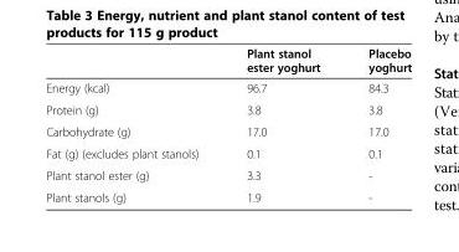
<table><thead><tr><td></td><td>Plant stanol ester yoghurt</td><td>Placebo yoghurt</td></tr></thead><tbody><tr><td>Energy (kcal)</td><td>96.7</td><td>84.3</td></tr><tr><td>Protein (g)</td><td>3.8</td><td>3.8</td></tr><tr><td>Carbohydrate (g)</td><td>17.0</td><td>17.0</td></tr><tr><td>Fat (g) (excludes plant stanols)</td><td>0.1</td><td>0.1</td></tr><tr><td>Plant stanol ester (g)</td><td>3.3</td><td>-</td></tr><tr><td>Plant stanols (g)</td><td>1.9</td><td>-</td></tr></tbody></table>